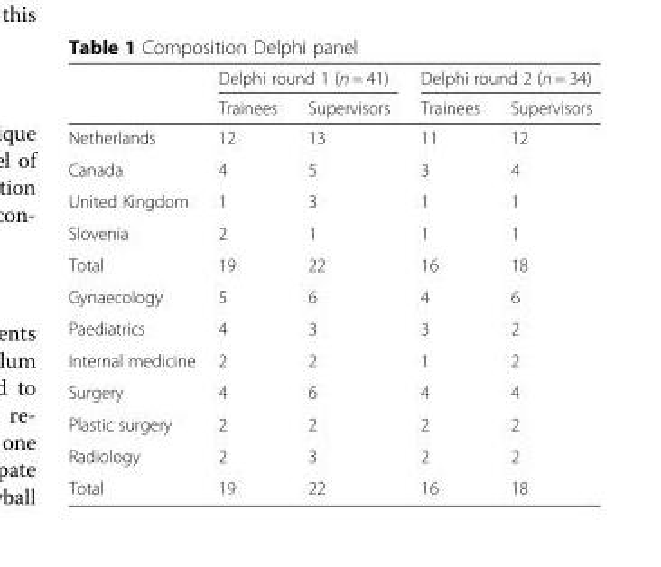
<table><thead><tr><td rowspan="2"></td><td colspan="2">Delphi round 1 (n = 41)</td><td colspan="2">Delphi round 2 (n = 34)</td></tr><tr><td>Trainees</td><td>Supervisors</td><td>Trainees</td><td>Supervisors</td></tr></thead><tbody><tr><td>Netherlands</td><td>12</td><td>13</td><td>11</td><td>12</td></tr><tr><td>Canada</td><td>4</td><td>5</td><td>3</td><td>4</td></tr><tr><td>United Kingdom</td><td>1</td><td>3</td><td>1</td><td>1</td></tr><tr><td>Slovenia</td><td>2</td><td>1</td><td>1</td><td>1</td></tr><tr><td>Total</td><td>19</td><td>22</td><td>16</td><td>18</td></tr><tr><td>Gynaecology</td><td>5</td><td>6</td><td>4</td><td>6</td></tr><tr><td>Paediatrics</td><td>4</td><td>3</td><td>3</td><td>2</td></tr><tr><td>Internal medicine</td><td>2</td><td>2</td><td>1</td><td>2</td></tr><tr><td>Surgery</td><td>4</td><td>6</td><td>4</td><td>4</td></tr><tr><td>Plastic surgery</td><td>2</td><td>2</td><td>2</td><td>2</td></tr><tr><td>Radiology</td><td>2</td><td>3</td><td>2</td><td>2</td></tr><tr><td>Total</td><td>19</td><td>22</td><td>16</td><td>18</td></tr></tbody></table>